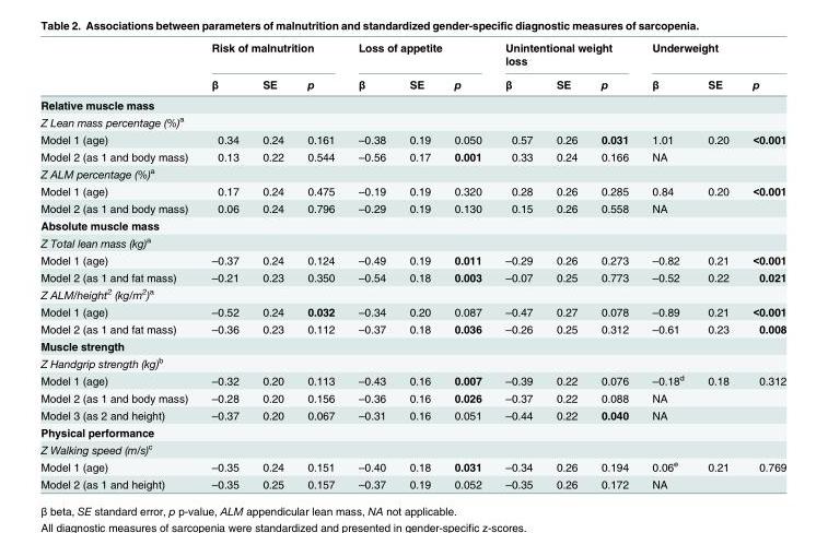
<table><thead><tr><td rowspan="2"></td><td colspan="3">Risk of malnutrition</td><td colspan="3">Loss of appetite</td><td colspan="3">Unintentional weight loss</td><td colspan="3">Underweight</td></tr><tr><td>β</td><td>SE</td><td>p</td><td>β</td><td>SE</td><td>p</td><td>β</td><td>SE</td><td>p</td><td>β</td><td>SE</td><td>p</td></tr></thead><tbody><tr><td colspan="13">Relative muscle mass</td></tr><tr><td colspan="13">Z Lean mass percentage (%)<sup>a</sup></td></tr><tr><td>Model 1 (age)</td><td>0.34</td><td>0.24</td><td>0.161</td><td>–0.38</td><td>0.19</td><td>0.050</td><td>0.57</td><td>0.26</td><td>0.031</td><td>1.01</td><td>0.20</td><td>&lt;0.001</td></tr><tr><td>Model 2 (as 1 and body mass)</td><td>0.13</td><td>0.22</td><td>0.544</td><td>–0.56</td><td>0.17</td><td>0.001</td><td>0.33</td><td>0.24</td><td>0.166</td><td>NA</td><td></td><td></td></tr><tr><td colspan="13">Z ALM percentage (%)<sup>a</sup></td></tr><tr><td>Model 1 (age)</td><td>0.17</td><td>0.24</td><td>0.475</td><td>–0.19</td><td>0.19</td><td>0.320</td><td>0.28</td><td>0.26</td><td>0.285</td><td>0.84</td><td>0.20</td><td>&lt;0.001</td></tr><tr><td>Model 2 (as 1 and body mass)</td><td>0.06</td><td>0.24</td><td>0.796</td><td>–0.29</td><td>0.19</td><td>0.130</td><td>0.15</td><td>0.26</td><td>0.558</td><td>NA</td><td></td><td></td></tr><tr><td colspan="13">Absolute muscle mass</td></tr><tr><td colspan="13">Z Total lean mass (kg)<sup>a</sup></td></tr><tr><td>Model 1 (age)</td><td>–0.37</td><td>0.24</td><td>0.124</td><td>–0.49</td><td>0.19</td><td>0.011</td><td>–0.29</td><td>0.26</td><td>0.273</td><td>–0.82</td><td>0.21</td><td>&lt;0.001</td></tr><tr><td>Model 2 (as 1 and fat mass)</td><td>–0.21</td><td>0.23</td><td>0.350</td><td>–0.54</td><td>0.18</td><td>0.003</td><td>–0.07</td><td>0.25</td><td>0.773</td><td>–0.52</td><td>0.22</td><td>0.021</td></tr><tr><td colspan="13">Z ALM/height<sup>2</sup> (kg/m<sup>2</sup>)<sup>a</sup></td></tr><tr><td>Model 1 (age)</td><td>–0.52</td><td>0.24</td><td>0.032</td><td>–0.34</td><td>0.20</td><td>0.087</td><td>–0.47</td><td>0.27</td><td>0.078</td><td>–0.89</td><td>0.21</td><td>&lt;0.001</td></tr><tr><td>Model 2 (as 1 and fat mass)</td><td>–0.36</td><td>0.23</td><td>0.112</td><td>–0.37</td><td>0.18</td><td>0.036</td><td>–0.26</td><td>0.25</td><td>0.312</td><td>–0.61</td><td>0.23</td><td>0.008</td></tr><tr><td colspan="13">Muscle strength</td></tr><tr><td colspan="13">Z Handgrip strength (kg)<sup>b</sup></td></tr><tr><td>Model 1 (age)</td><td>–0.32</td><td>0.20</td><td>0.113</td><td>–0.43</td><td>0.16</td><td>0.007</td><td>–0.39</td><td>0.22</td><td>0.076</td><td>–0.18<sup>d</sup></td><td>0.18</td><td>0.312</td></tr><tr><td>Model 2 (as 1 and body mass)</td><td>–0.28</td><td>0.20</td><td>0.156</td><td>–0.36</td><td>0.16</td><td>0.026</td><td>–0.37</td><td>0.22</td><td>0.088</td><td>NA</td><td></td><td></td></tr><tr><td>Model 3 (as 2 and height)</td><td>–0.37</td><td>0.20</td><td>0.067</td><td>–0.31</td><td>0.16</td><td>0.051</td><td>–0.44</td><td>0.22</td><td>0.040</td><td>NA</td><td></td><td></td></tr><tr><td colspan="13">Physical performance</td></tr><tr><td colspan="13">Z Walking speed (m/s)<sup>c</sup></td></tr><tr><td>Model 1 (age)</td><td>–0.35</td><td>0.24</td><td>0.151</td><td>–0.40</td><td>0.18</td><td>0.031</td><td>–0.34</td><td>0.26</td><td>0.194</td><td>0.06<sup>e</sup></td><td>0.21</td><td>0.769</td></tr><tr><td>Model 2 (as 1 and height)</td><td>–0.35</td><td>0.25</td><td>0.157</td><td>–0.37</td><td>0.19</td><td>0.052</td><td>–0.35</td><td>0.26</td><td>0.172</td><td>NA</td><td></td><td></td></tr></tbody></table>